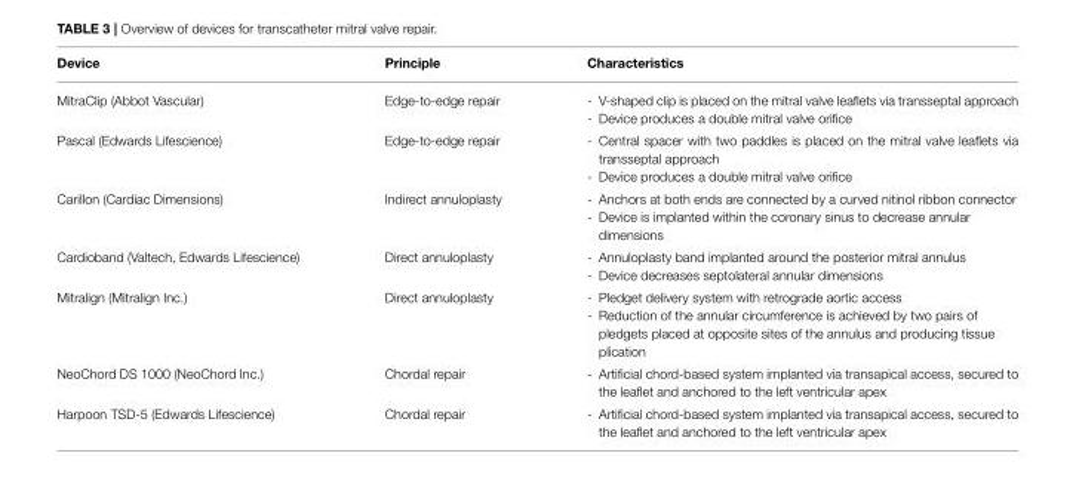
<table><thead><tr><td>Device</td><td>Principle</td><td>Characteristics</td></tr></thead><tbody><tr><td>MitraClip (Abbot Vascular)</td><td>Edge-to-edge repair</td><td>- V-shaped clip is placed on the mitral valve leaflets via transseptal approach - Device produces a double mitral valve orifice</td></tr><tr><td>Pascal (Edwards Lifescience)</td><td>Edge-to-edge repair</td><td>- Central spacer with two paddles is placed on the mitral valve leaflets via transseptal approach - Device produces a double mitral valve orifice</td></tr><tr><td>Carillon (Cardiac Dimensions)</td><td>Indirect annuloplasty</td><td>- Anchors at both ends are connected by a curved nitinol ribbon connector - Device is implanted within the coronary sinus to decrease annular dimensions</td></tr><tr><td>Cardioband (Valtech, Edwards Lifescience)</td><td>Direct annuloplasty</td><td>- Annuloplasty band implanted around the posterior mitral annulus - Device decreases septolateral annular dimensions</td></tr><tr><td>Mitralign (Mitralign Inc.)</td><td>Direct annuloplasty</td><td>- Pledget delivery system with retrograde aortic access - Reduction of the annular circumference is achieved by two pairs of pledgets placed at opposite sites of the annulus and producing tissue plication</td></tr><tr><td>NeoChord DS 1000 (NeoChord Inc.)</td><td>Chordal repair</td><td>- Artificial chord-based system implanted via transapical access, secured to the leaflet and anchored to the left ventricular apex</td></tr><tr><td>Harpoon TSD-5 (Edwards Lifescience)</td><td>Chordal repair</td><td>- Artificial chord-based system implanted via transapical access, secured to the leaflet and anchored to the left ventricular apex</td></tr></tbody></table>